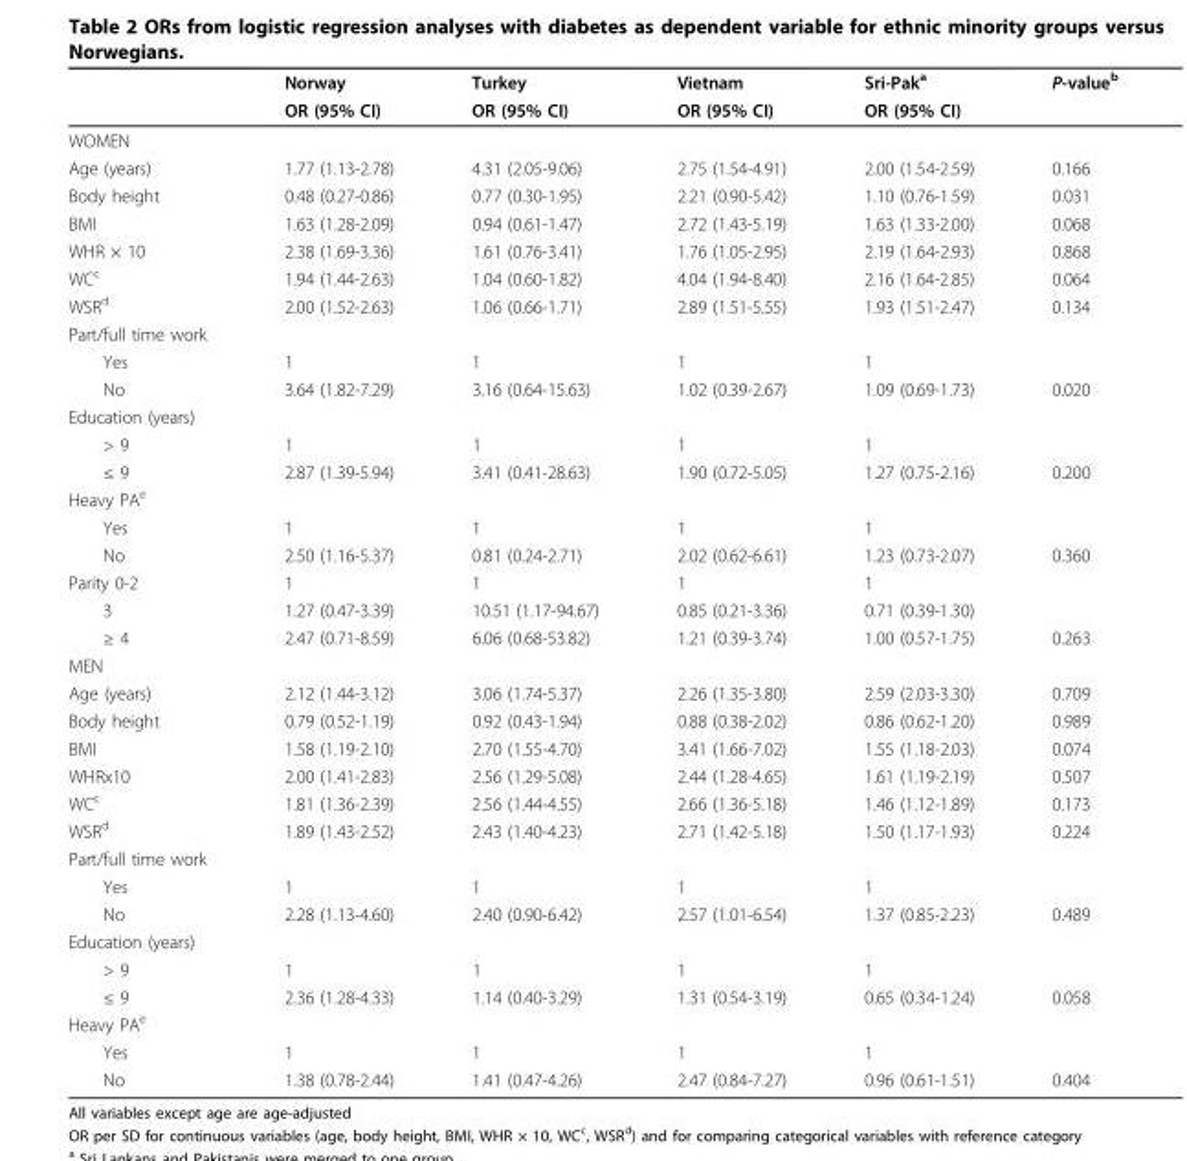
<table><thead><tr><td rowspan="2"></td><td rowspan="2">Norway OR (95% CI)</td><td rowspan="2">Turkey OR (95% CI)</td><td rowspan="2">Vietnam OR (95% CI)</td><td rowspan="2">Sri-Pak<sup>a</sup> OR (95% CI)</td><td rowspan="2">P-value<sup>b</sup></td></tr><tr></tr></thead><tbody><tr><td colspan="6">WOMEN</td></tr><tr><td>Age (years)</td><td>1.77 (1.13-2.78)</td><td>4.31 (2.05-9.06)</td><td>2.75 (1.54-4.91)</td><td>2.00 (1.54-2.59)</td><td>0.166</td></tr><tr><td>Body height</td><td>0.48 (0.27-0.86)</td><td>0.77 (0.30-1.95)</td><td>2.21 (0.90-5.42)</td><td>1.10 (0.76-1.59)</td><td>0.031</td></tr><tr><td>BMI</td><td>1.63 (1.28-2.09)</td><td>0.94 (0.61-1.47)</td><td>2.72 (1.43-5.19)</td><td>1.63 (1.33-2.00)</td><td>0.068</td></tr><tr><td>WHR × 10</td><td>2.38 (1.69-3.36)</td><td>1.61 (0.76-3.41)</td><td>1.76 (1.05-2.95)</td><td>2.19 (1.64-2.93)</td><td>0.868</td></tr><tr><td>WC<sup>c</sup></td><td>1.94 (1.44-2.63)</td><td>1.04 (0.60-1.82)</td><td>4.04 (1.94-8.40)</td><td>2.16 (1.64-2.85)</td><td>0.064</td></tr><tr><td>WSR<sup>d</sup></td><td>2.00 (1.52-2.63)</td><td>1.06 (0.66-1.71)</td><td>2.89 (1.51-5.55)</td><td>1.93 (1.51-2.47)</td><td>0.134</td></tr><tr><td colspan="6">Part/full time work</td></tr><tr><td>Yes</td><td>1</td><td>1</td><td>1</td><td>1</td><td></td></tr><tr><td>No</td><td>3.64 (1.82-7.29)</td><td>3.16 (0.64-15.63)</td><td>1.02 (0.39-2.67)</td><td>1.09 (0.69-1.73)</td><td>0.020</td></tr><tr><td colspan="6">Education (years)</td></tr><tr><td>&gt; 9</td><td>1</td><td>1</td><td>1</td><td>1</td><td></td></tr><tr><td>≤ 9</td><td>2.87 (1.39-5.94)</td><td>3.41 (0.41-28.63)</td><td>1.90 (0.72-5.05)</td><td>1.27 (0.75-2.16)</td><td>0.200</td></tr><tr><td colspan="6">Heavy PA<sup>e</sup></td></tr><tr><td>Yes</td><td>1</td><td>1</td><td>1</td><td>1</td><td></td></tr><tr><td>No</td><td>2.50 (1.16-5.37)</td><td>0.81 (0.24-2.71)</td><td>2.02 (0.62-6.61)</td><td>1.23 (0.73-2.07)</td><td>0.360</td></tr><tr><td>Parity 0-2</td><td>1</td><td>1</td><td>1</td><td>1</td><td></td></tr><tr><td>3</td><td>1.27 (0.47-3.39)</td><td>10.51 (1.17-94.67)</td><td>0.85 (0.21-3.36)</td><td>0.71 (0.39-1.30)</td><td></td></tr><tr><td>≥ 4</td><td>2.47 (0.71-8.59)</td><td>6.06 (0.68-53.82)</td><td>1.21 (0.39-3.74)</td><td>1.00 (0.57-1.75)</td><td>0.263</td></tr><tr><td colspan="6">MEN</td></tr><tr><td>Age (years)</td><td>2.12 (1.44-3.12)</td><td>3.06 (1.74-5.37)</td><td>2.26 (1.35-3.80)</td><td>2.59 (2.03-3.30)</td><td>0.709</td></tr><tr><td>Body height</td><td>0.79 (0.52-1.19)</td><td>0.92 (0.43-1.94)</td><td>0.88 (0.38-2.02)</td><td>0.86 (0.62-1.20)</td><td>0.989</td></tr><tr><td>BMI</td><td>1.58 (1.19-2.10)</td><td>2.70 (1.55-4.70)</td><td>3.41 (1.66-7.02)</td><td>1.55 (1.18-2.03)</td><td>0.074</td></tr><tr><td>WHRx10</td><td>2.00 (1.41-2.83)</td><td>2.56 (1.29-5.08)</td><td>2.44 (1.28-4.65)</td><td>1.61 (1.19-2.19)</td><td>0.507</td></tr><tr><td>WC<sup>c</sup></td><td>1.81 (1.36-2.39)</td><td>2.56 (1.44-4.55)</td><td>2.66 (1.36-5.18)</td><td>1.46 (1.12-1.89)</td><td>0.173</td></tr><tr><td>WSR<sup>d</sup></td><td>1.89 (1.43-2.52)</td><td>2.43 (1.40-4.23)</td><td>2.71 (1.42-5.18)</td><td>1.50 (1.17-1.93)</td><td>0.224</td></tr><tr><td colspan="6">Part/full time work</td></tr><tr><td>Yes</td><td>1</td><td>1</td><td>1</td><td>1</td><td></td></tr><tr><td>No</td><td>2.28 (1.13-4.60)</td><td>2.40 (0.90-6.42)</td><td>2.57 (1.01-6.54)</td><td>1.37 (0.85-2.23)</td><td>0.489</td></tr><tr><td colspan="6">Education (years)</td></tr><tr><td>&gt; 9</td><td>1</td><td>1</td><td>1</td><td>1</td><td></td></tr><tr><td>≤ 9</td><td>2.36 (1.28-4.33)</td><td>1.14 (0.40-3.29)</td><td>1.31 (0.54-3.19)</td><td>0.65 (0.34-1.24)</td><td>0.058</td></tr><tr><td colspan="6">Heavy PA<sup>e</sup></td></tr><tr><td>Yes</td><td>1</td><td>1</td><td>1</td><td>1</td><td></td></tr><tr><td>No</td><td>1.38 (0.78-2.44)</td><td>1.41 (0.47-4.26)</td><td>2.47 (0.84-7.27)</td><td>0.96 (0.61-1.51)</td><td>0.404</td></tr></tbody></table>